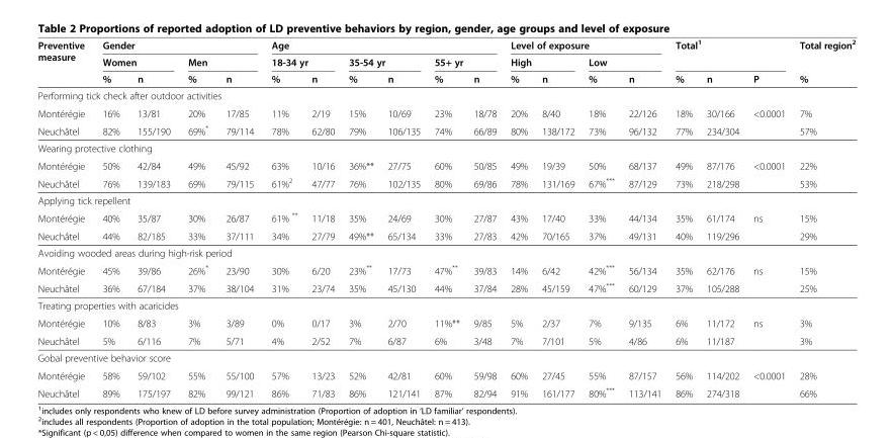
<table><thead><tr><td rowspan="3">Preventive measure</td><td colspan="4">Gender</td><td colspan="6">Age</td><td colspan="4">Level of exposure</td><td rowspan="2" colspan="3">Total<sup>1</sup></td><td rowspan="3">Total region<sup>2</sup> %</td></tr><tr><td colspan="2">Women</td><td colspan="2">Men</td><td colspan="2">18-34 yr</td><td colspan="2">35-54 yr</td><td colspan="2">55+ yr</td><td colspan="2">High</td><td colspan="2">Low</td></tr><tr><td>%</td><td>n</td><td>%</td><td>n</td><td>%</td><td>n</td><td>%</td><td>n</td><td>%</td><td>n</td><td>%</td><td>n</td><td>%</td><td>n</td><td>%</td><td>n</td><td>P</td></tr></thead><tbody><tr><td colspan="19">Performing tick check after outdoor activities</td></tr><tr><td>Montérégie</td><td>16%</td><td>13/81</td><td>20%</td><td>17/85</td><td>11%</td><td>2/19</td><td>15%</td><td>10/69</td><td>23%</td><td>18/78</td><td>20%</td><td>8/40</td><td>18%</td><td>22/126</td><td>18%</td><td>30/166</td><td>&lt;0.0001</td><td>7%</td></tr><tr><td>Neuchâtel</td><td>82%</td><td>155/190</td><td>69%*</td><td>79/114</td><td>78%</td><td>62/80</td><td>79%</td><td>106/135</td><td>74%</td><td>66/89</td><td>80%</td><td>138/172</td><td>73%</td><td>96/132</td><td>77%</td><td>234/304</td><td></td><td>57%</td></tr><tr><td colspan="19">Wearing protective clothing</td></tr><tr><td>Montérégie</td><td>50%</td><td>42/84</td><td>49%</td><td>45/92</td><td>63%</td><td>10/16</td><td>36%**</td><td>27/75</td><td>60%</td><td>50/85</td><td>49%</td><td>19/39</td><td>50%</td><td>68/137</td><td>49%</td><td>87/176</td><td>&lt;0.0001</td><td>22%</td></tr><tr><td>Neuchâtel</td><td>76%</td><td>139/183</td><td>69%</td><td>79/115</td><td>61%<sup>2</sup></td><td>47/77</td><td>76%</td><td>102/135</td><td>80%</td><td>69/86</td><td>78%</td><td>131/169</td><td>67%***</td><td>87/129</td><td>73%</td><td>218/298</td><td></td><td>53%</td></tr><tr><td colspan="19">Applying tick repellent</td></tr><tr><td>Montérégie</td><td>40%</td><td>35/87</td><td>30%</td><td>26/87</td><td>61% **</td><td>11/18</td><td>35%</td><td>24/69</td><td>30%</td><td>27/87</td><td>43%</td><td>17/40</td><td>33%</td><td>44/134</td><td>35%</td><td>61/174</td><td>ns</td><td>15%</td></tr><tr><td>Neuchâtel</td><td>44%</td><td>82/185</td><td>33%</td><td>37/111</td><td>34%</td><td>27/79</td><td>49%**</td><td>65/134</td><td>33%</td><td>27/83</td><td>42%</td><td>70/165</td><td>37%</td><td>49/131</td><td>40%</td><td>119/296</td><td></td><td>29%</td></tr><tr><td colspan="19">Avoiding wooded areas during high-risk period</td></tr><tr><td>Montérégie</td><td>45%</td><td>39/86</td><td>26%*</td><td>23/90</td><td>30%</td><td>6/20</td><td>23%**</td><td>17/73</td><td>47%**</td><td>39/83</td><td>14%</td><td>6/42</td><td>42%***</td><td>56/134</td><td>35%</td><td>62/176</td><td>ns</td><td>15%</td></tr><tr><td>Neuchâtel</td><td>36%</td><td>67/184</td><td>37%</td><td>38/104</td><td>31%</td><td>23/74</td><td>35%</td><td>45/130</td><td>44%</td><td>37/84</td><td>28%</td><td>45/159</td><td>47%***</td><td>60/129</td><td>37%</td><td>105/288</td><td></td><td>25%</td></tr><tr><td colspan="19">Treating properties with acaricides</td></tr><tr><td>Montérégie</td><td>10%</td><td>8/83</td><td>3%</td><td>3/89</td><td>0%</td><td>0/17</td><td>3%</td><td>2/70</td><td>11%**</td><td>9/85</td><td>5%</td><td>2/37</td><td>7%</td><td>9/135</td><td>6%</td><td>11/172</td><td>ns</td><td>3%</td></tr><tr><td>Neuchâtel</td><td>5%</td><td>6/116</td><td>7%</td><td>5/71</td><td>4%</td><td>2/52</td><td>7%</td><td>6/87</td><td>6%</td><td>3/48</td><td>7%</td><td>7/101</td><td>5%</td><td>4/86</td><td>6%</td><td>11/187</td><td></td><td>3%</td></tr><tr><td colspan="19">Gobal preventive behavior score</td></tr><tr><td>Montérégie</td><td>58%</td><td>59/102</td><td>55%</td><td>55/100</td><td>57%</td><td>13/23</td><td>52%</td><td>42/81</td><td>60%</td><td>59/98</td><td>60%</td><td>27/45</td><td>55%</td><td>87/157</td><td>56%</td><td>114/202</td><td>&lt;0.0001</td><td>28%</td></tr><tr><td>Neuchâtel</td><td>89%</td><td>175/197</td><td>82%</td><td>99/121</td><td>86%</td><td>71/83</td><td>86%</td><td>121/141</td><td>87%</td><td>82/94</td><td>91%</td><td>161/177</td><td>80%***</td><td>113/141</td><td>86%</td><td>274/318</td><td></td><td>66%</td></tr></tbody></table>